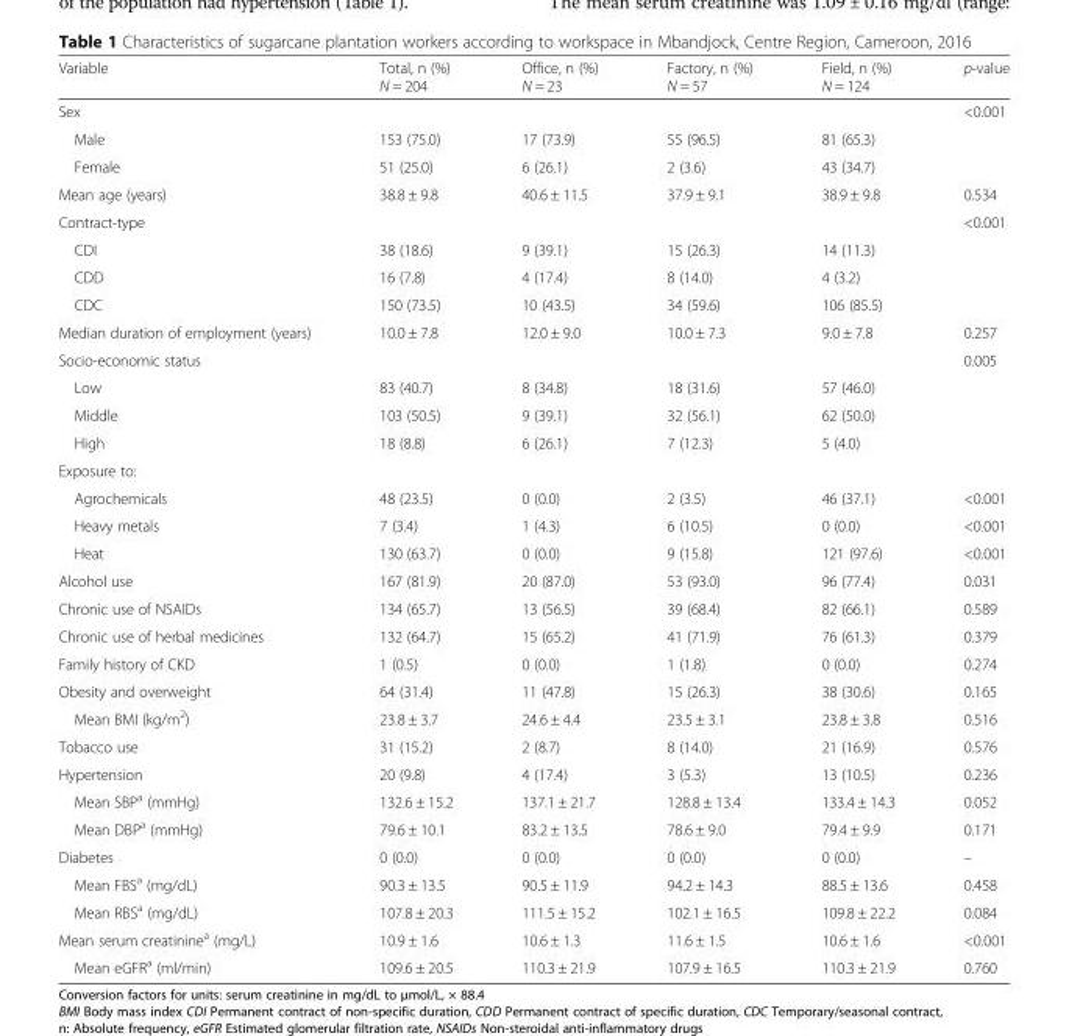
<table><thead><tr><td>Variable</td><td>Total, n (%) N = 204</td><td>Office, n (%) N = 23</td><td>Factory, n (%) N = 57</td><td>Field, n (%) N = 124</td><td>p-value</td></tr></thead><tbody><tr><td>Sex</td><td></td><td></td><td></td><td></td><td>&lt;0.001</td></tr><tr><td>Male</td><td>153 (75.0)</td><td>17 (73.9)</td><td>55 (96.5)</td><td>81 (65.3)</td><td></td></tr><tr><td>Female</td><td>51 (25.0)</td><td>6 (26.1)</td><td>2 (3.6)</td><td>43 (34.7)</td><td></td></tr><tr><td>Mean age (years)</td><td>38.8 ± 9.8</td><td>40.6 ± 11.5</td><td>37.9 ± 9.1</td><td>38.9 ± 9.8</td><td>0.534</td></tr><tr><td colspan="4">Contract-type</td><td></td><td>&lt;0.001</td></tr><tr><td>CDI</td><td>38 (18.6)</td><td>9 (39.1)</td><td>15 (26.3)</td><td>14 (11.3)</td><td></td></tr><tr><td>CDD</td><td>16 (7.8)</td><td>4 (17.4)</td><td>8 (14.0)</td><td>4 (3.2)</td><td></td></tr><tr><td>CDC</td><td>150 (73.5)</td><td>10 (43.5)</td><td>34 (59.6)</td><td>106 (85.5)</td><td></td></tr><tr><td>Median duration of employment (years)</td><td>10.0 ± 7.8</td><td>12.0 ± 9.0</td><td>10.0 ± 7.3</td><td>9.0 ± 7.8</td><td>0.257</td></tr><tr><td colspan="4">Socio-economic status</td><td></td><td>0.005</td></tr><tr><td>Low</td><td>83 (40.7)</td><td>8 (34.8)</td><td>18 (31.6)</td><td>57 (46.0)</td><td></td></tr><tr><td>Middle</td><td>103 (50.5)</td><td>9 (39.1)</td><td>32 (56.1)</td><td>62 (50.0)</td><td></td></tr><tr><td>High</td><td>18 (8.8)</td><td>6 (26.1)</td><td>7 (12.3)</td><td>5 (4.0)</td><td></td></tr><tr><td colspan="6">Exposure to:</td></tr><tr><td>Agrochemicals</td><td>48 (23.5)</td><td>0 (0.0)</td><td>2 (3.5)</td><td>46 (37.1)</td><td>&lt;0.001</td></tr><tr><td>Heavy metals</td><td>7 (3.4)</td><td>1 (4.3)</td><td>6 (10.5)</td><td>0 (0.0)</td><td>&lt;0.001</td></tr><tr><td>Heat</td><td>130 (63.7)</td><td>0 (0.0)</td><td>9 (15.8)</td><td>121 (97.6)</td><td>&lt;0.001</td></tr><tr><td>Alcohol use</td><td>167 (81.9)</td><td>20 (87.0)</td><td>53 (93.0)</td><td>96 (77.4)</td><td>0.031</td></tr><tr><td>Chronic use of NSAIDs</td><td>134 (65.7)</td><td>13 (56.5)</td><td>39 (68.4)</td><td>82 (66.1)</td><td>0.589</td></tr><tr><td>Chronic use of herbal medicines</td><td>132 (64.7)</td><td>15 (65.2)</td><td>41 (71.9)</td><td>76 (61.3)</td><td>0.379</td></tr><tr><td>Family history of CKD</td><td>1 (0.5)</td><td>0 (0.0)</td><td>1 (1.8)</td><td>0 (0.0)</td><td>0.274</td></tr><tr><td>Obesity and overweight</td><td>64 (31.4)</td><td>11 (47.8)</td><td>15 (26.3)</td><td>38 (30.6)</td><td>0.165</td></tr><tr><td>Mean BMI (kg/m<sup>2</sup>)</td><td>23.8 ± 3.7</td><td>24.6 ± 4.4</td><td>23.5 ± 3.1</td><td>23.8 ± 3.8</td><td>0.516</td></tr><tr><td>Tobacco use</td><td>31 (15.2)</td><td>2 (8.7)</td><td>8 (14.0)</td><td>21 (16.9)</td><td>0.576</td></tr><tr><td>Hypertension</td><td>20 (9.8)</td><td>4 (17.4)</td><td>3 (5.3)</td><td>13 (10.5)</td><td>0.236</td></tr><tr><td>Mean SBP<sup>a</sup> (mmHg)</td><td>132.6 ± 15.2</td><td>137.1 ± 21.7</td><td>128.8 ± 13.4</td><td>133.4 ± 14.3</td><td>0.052</td></tr><tr><td>Mean DBP<sup>a</sup> (mmHg)</td><td>79.6 ± 10.1</td><td>83.2 ± 13.5</td><td>78.6 ± 9.0</td><td>79.4 ± 9.9</td><td>0.171</td></tr><tr><td>Diabetes</td><td>0 (0.0)</td><td>0 (0.0)</td><td>0 (0.0)</td><td>0 (0.0)</td><td>–</td></tr><tr><td>Mean FBS<sup>a</sup> (mg/dL)</td><td>90.3 ± 13.5</td><td>90.5 ± 11.9</td><td>94.2 ± 14.3</td><td>88.5 ± 13.6</td><td>0.458</td></tr><tr><td>Mean RBS<sup>a</sup> (mg/dL)</td><td>107.8 ± 20.3</td><td>111.5 ± 15.2</td><td>102.1 ± 16.5</td><td>109.8 ± 22.2</td><td>0.084</td></tr><tr><td>Mean serum creatinine<sup>a</sup> (mg/L)</td><td>10.9 ± 1.6</td><td>10.6 ± 1.3</td><td>11.6 ± 1.5</td><td>10.6 ± 1.6</td><td>&lt;0.001</td></tr><tr><td>Mean eGFR<sup>a</sup> (ml/min)</td><td>109.6 ± 20.5</td><td>110.3 ± 21.9</td><td>107.9 ± 16.5</td><td>110.3 ± 21.9</td><td>0.760</td></tr></tbody></table>